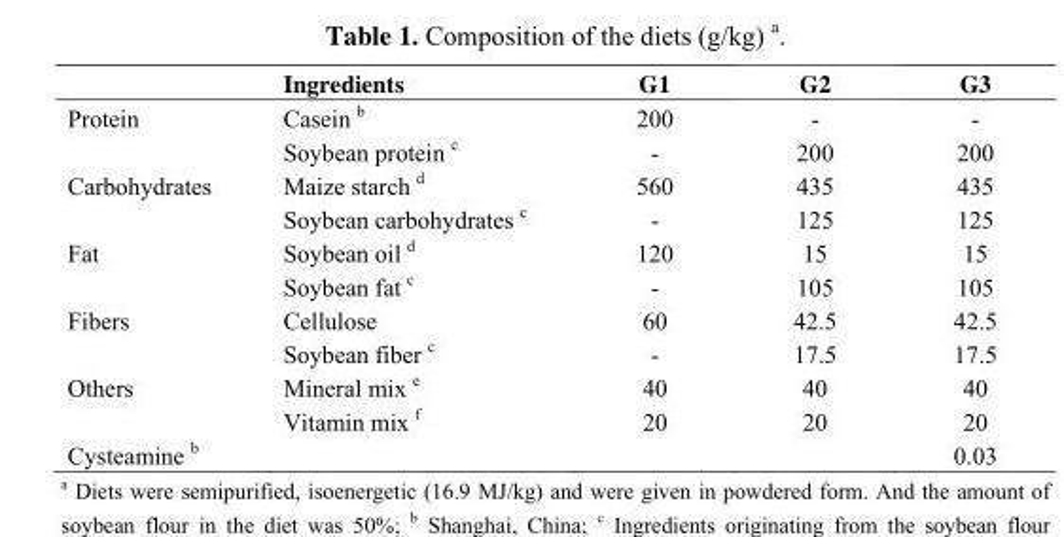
<table><thead><tr><td></td><td>Ingredients</td><td>G1</td><td>G2</td><td>G3</td></tr></thead><tbody><tr><td rowspan="2">Protein</td><td>Casein b</td><td>200</td><td>-</td><td>-</td></tr><tr><td>Soybean protein c</td><td>-</td><td>200</td><td>200</td></tr><tr><td rowspan="2">Carbohydrates</td><td>Maize starch d</td><td>560</td><td>435</td><td>435</td></tr><tr><td>Soybean carbohydrates c</td><td>-</td><td>125</td><td>125</td></tr><tr><td rowspan="2">Fat</td><td>Soybean oil d</td><td>120</td><td>15</td><td>15</td></tr><tr><td>Soybean fat c</td><td>-</td><td>105</td><td>105</td></tr><tr><td rowspan="2">Fibers</td><td>Cellulose</td><td>60</td><td>42.5</td><td>42.5</td></tr><tr><td>Soybean fiber c</td><td>-</td><td>17.5</td><td>17.5</td></tr><tr><td rowspan="2">Others</td><td>Mineral mix e</td><td>40</td><td>40</td><td>40</td></tr><tr><td>Vitamin mix f</td><td>20</td><td>20</td><td>20</td></tr><tr><td>Cysteamine b</td><td></td><td></td><td></td><td>0.03</td></tr></tbody></table>